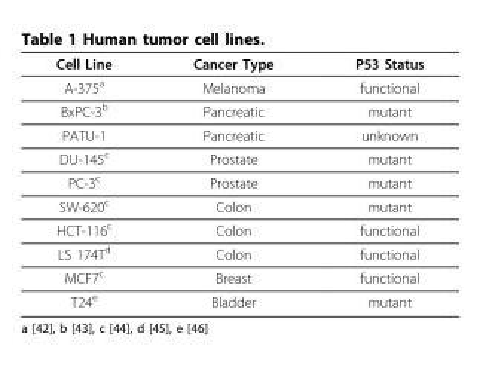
<table><thead><tr><td>Cell Line</td><td>Cancer Type</td><td>P53 Status</td></tr></thead><tbody><tr><td>A-375<sup>a</sup></td><td>Melanoma</td><td>functional</td></tr><tr><td>BxPC-3<sup>b</sup></td><td>Pancreatic</td><td>mutant</td></tr><tr><td>PATU-1</td><td>Pancreatic</td><td>unknown</td></tr><tr><td>DU-145<sup>c</sup></td><td>Prostate</td><td>mutant</td></tr><tr><td>PC-3<sup>c</sup></td><td>Prostate</td><td>mutant</td></tr><tr><td>SW-620<sup>c</sup></td><td>Colon</td><td>mutant</td></tr><tr><td>HCT-116<sup>c</sup></td><td>Colon</td><td>functional</td></tr><tr><td>LS 174T<sup>d</sup></td><td>Colon</td><td>functional</td></tr><tr><td>MCF7<sup>c</sup></td><td>Breast</td><td>functional</td></tr><tr><td>T24<sup>e</sup></td><td>Bladder</td><td>mutant</td></tr></tbody></table>